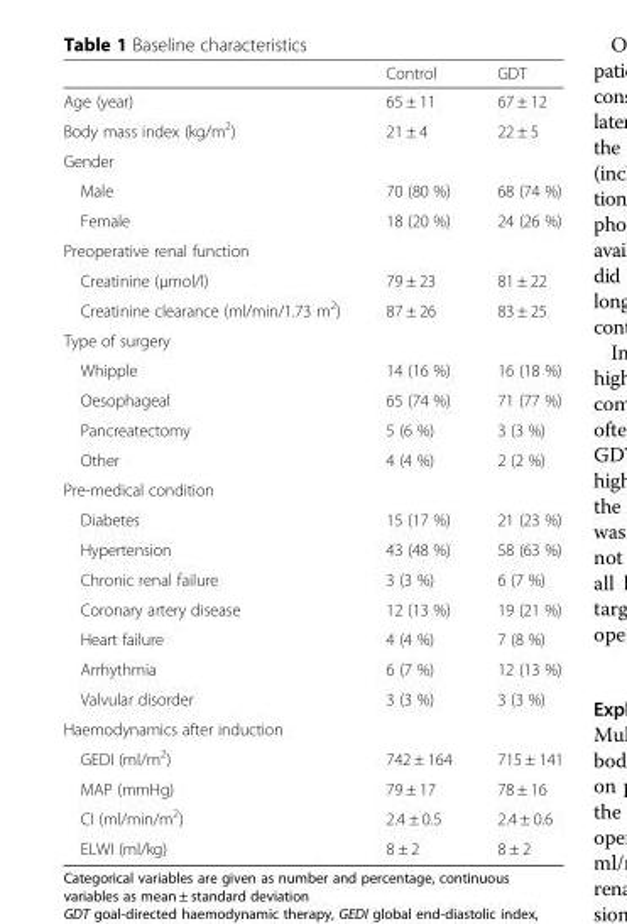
<table><thead><tr><td></td><td>Control</td><td>GDT</td></tr></thead><tbody><tr><td>Age (year)</td><td>65 ± 11</td><td>67 ± 12</td></tr><tr><td>Body mass index (kg/m<sup>2</sup>)</td><td>21 ± 4</td><td>22 ± 5</td></tr><tr><td colspan="3">Gender</td></tr><tr><td>Male</td><td>70 (80 %)</td><td>68 (74 %)</td></tr><tr><td>Female</td><td>18 (20 %)</td><td>24 (26 %)</td></tr><tr><td colspan="3">Preoperative renal function</td></tr><tr><td>Creatinine (μmol/l)</td><td>79 ± 23</td><td>81 ± 22</td></tr><tr><td>Creatinine clearance (ml/min/1.73 m<sup>2</sup>)</td><td>87 ± 26</td><td>83 ± 25</td></tr><tr><td colspan="3">Type of surgery</td></tr><tr><td>Whipple</td><td>14 (16 %)</td><td>16 (18 %)</td></tr><tr><td>Oesophageal</td><td>65 (74 %)</td><td>71 (77 %)</td></tr><tr><td>Pancreatectomy</td><td>5 (6 %)</td><td>3 (3 %)</td></tr><tr><td>Other</td><td>4 (4 %)</td><td>2 (2 %)</td></tr><tr><td colspan="3">Pre-medical condition</td></tr><tr><td>Diabetes</td><td>15 (17 %)</td><td>21 (23 %)</td></tr><tr><td>Hypertension</td><td>43 (48 %)</td><td>58 (63 %)</td></tr><tr><td>Chronic renal failure</td><td>3 (3 %)</td><td>6 (7 %)</td></tr><tr><td>Coronary artery disease</td><td>12 (13 %)</td><td>19 (21 %)</td></tr><tr><td>Heart failure</td><td>4 (4 %)</td><td>7 (8 %)</td></tr><tr><td>Arrhythmia</td><td>6 (7 %)</td><td>12 (13 %)</td></tr><tr><td>Valvular disorder</td><td>3 (3 %)</td><td>3 (3 %)</td></tr><tr><td colspan="3">Haemodynamics after induction</td></tr><tr><td>GEDI (ml/m<sup>2</sup>)</td><td>742 ± 164</td><td>715 ± 141</td></tr><tr><td>MAP (mmHg)</td><td>79 ± 17</td><td>78 ± 16</td></tr><tr><td>CI (ml/min/m<sup>2</sup>)</td><td>2.4 ± 0.5</td><td>2.4 ± 0.6</td></tr><tr><td>ELWI (ml/kg)</td><td>8 ± 2</td><td>8 ± 2</td></tr></tbody></table>